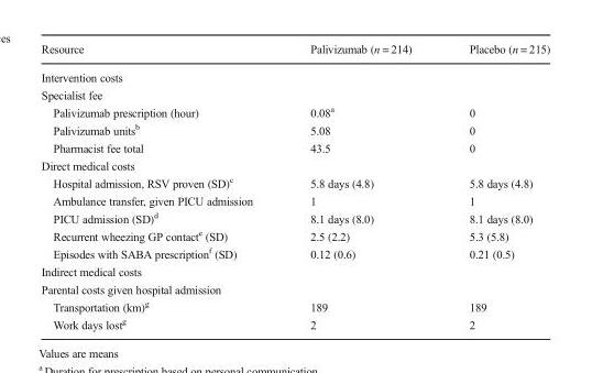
<table><thead><tr><td>Resource</td><td>Palivizumab (n = 214)</td><td>Placebo (n = 215)</td></tr></thead><tbody><tr><td colspan="3">Intervention costs</td></tr><tr><td colspan="3">Specialist fee</td></tr><tr><td>Palivizumab prescription (hour)</td><td>0.08<sup>a</sup></td><td>0</td></tr><tr><td>Palivizumab units<sup>b</sup></td><td>5.08</td><td>0</td></tr><tr><td>Pharmacist fee total</td><td>43.5</td><td>0</td></tr><tr><td colspan="3">Direct medical costs</td></tr><tr><td>Hospital admission, RSV proven (SD)<sup>c</sup></td><td>5.8 days (4.8)</td><td>5.8 days (4.8)</td></tr><tr><td>Ambulance transfer, given PICU admission</td><td>1</td><td>1</td></tr><tr><td>PICU admission (SD)<sup>d</sup></td><td>8.1 days (8.0)</td><td>8.1 days (8.0)</td></tr><tr><td>Recurrent wheezing GP contact<sup>e</sup> (SD)</td><td>2.5 (2.2)</td><td>5.3 (5.8)</td></tr><tr><td>Episodes with SABA prescription<sup>f</sup> (SD)</td><td>0.12 (0.6)</td><td>0.21 (0.5)</td></tr><tr><td colspan="3">Indirect medical costs</td></tr><tr><td colspan="3">Parental costs given hospital admission</td></tr><tr><td>Transportation (km)<sup>g</sup></td><td>189</td><td>189</td></tr><tr><td>Work days lost<sup>g</sup></td><td>2</td><td>2</td></tr></tbody></table>